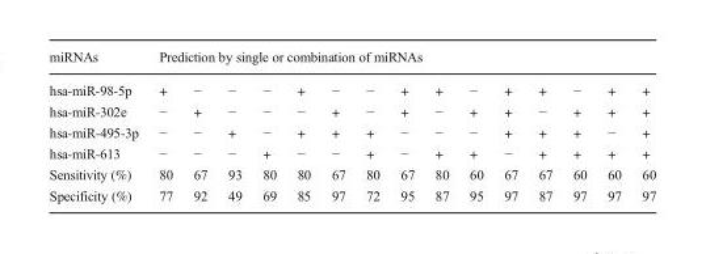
<table><thead><tr><td rowspan="2">miRNAs hsa-miR-98-5p</td><td colspan="15">Prediction by single or combination of miRNAs</td></tr><tr><td>+</td><td>−</td><td>−</td><td>−</td><td>+</td><td>−</td><td>−</td><td>+</td><td>+</td><td>−</td><td>+</td><td>+</td><td>−</td><td>+</td><td>+</td></tr></thead><tbody><tr><td>hsa-miR-302e</td><td>−</td><td>+</td><td>−</td><td>−</td><td>−</td><td>+</td><td>−</td><td>+</td><td>−</td><td>+</td><td>+</td><td>−</td><td>+</td><td>+</td><td>+</td></tr><tr><td>hsa-miR-495-3p</td><td>−</td><td>−</td><td>+</td><td>−</td><td>+</td><td>+</td><td>+</td><td>−</td><td>−</td><td>−</td><td>+</td><td>+</td><td>+</td><td>−</td><td>+</td></tr><tr><td>hsa-miR-613</td><td>−</td><td>−</td><td>−</td><td>+</td><td>−</td><td>−</td><td>+</td><td>−</td><td>+</td><td>+</td><td>−</td><td>+</td><td>+</td><td>+</td><td>+</td></tr><tr><td>Sensitivity (%)</td><td>80</td><td>67</td><td>93</td><td>80</td><td>80</td><td>67</td><td>80</td><td>67</td><td>80</td><td>60</td><td>67</td><td>67</td><td>60</td><td>60</td><td>60</td></tr><tr><td>Specificity (%)</td><td>77</td><td>92</td><td>49</td><td>69</td><td>85</td><td>97</td><td>72</td><td>95</td><td>87</td><td>95</td><td>97</td><td>87</td><td>97</td><td>97</td><td>97</td></tr></tbody></table>